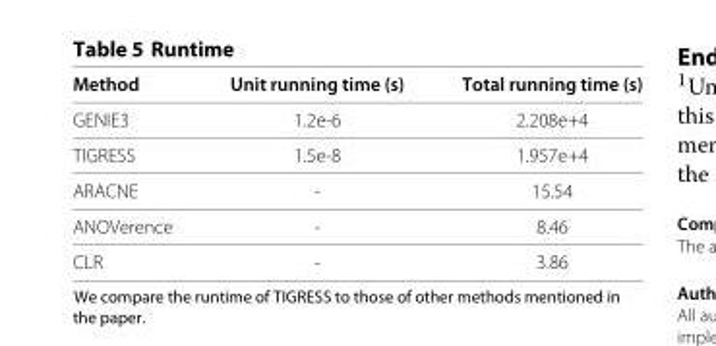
<table><thead><tr><td>Method</td><td>Unit running time (s)</td><td>Total running time (s)</td></tr></thead><tbody><tr><td>GENIE3</td><td>1.2e-6</td><td>2.208e+4</td></tr><tr><td>TIGRESS</td><td>1.5e-8</td><td>1.957e+4</td></tr><tr><td>ARACNE</td><td>-</td><td>15.54</td></tr><tr><td>ANOVerence</td><td>-</td><td>8.46</td></tr><tr><td>CLR</td><td>-</td><td>3.86</td></tr></tbody></table>